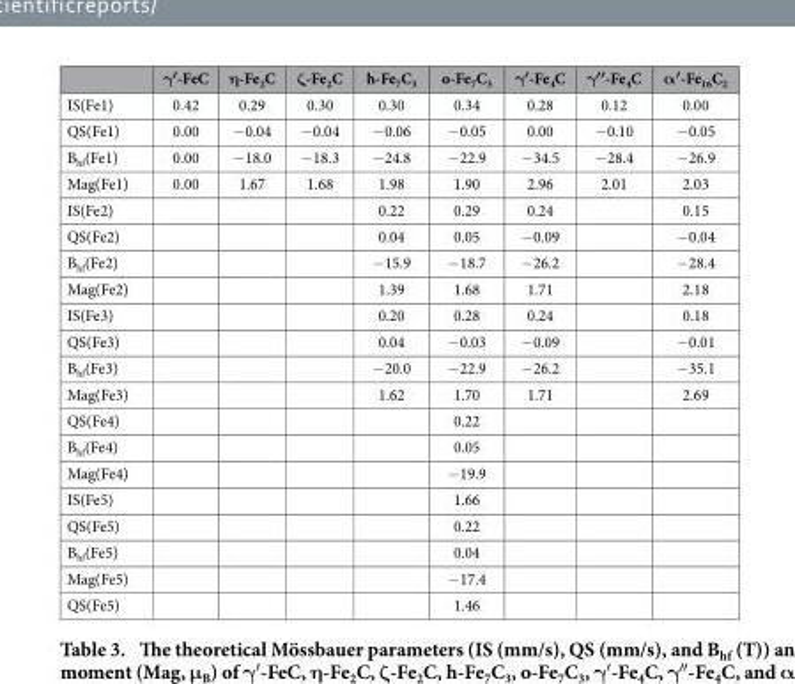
<table><thead><tr><td></td><td>γ′-FeC</td><td>η-Fe<sub>2</sub>C</td><td>ζ-Fe<sub>2</sub>C</td><td>h-Fe<sub>7</sub>C<sub>3</sub></td><td>o-Fe<sub>7</sub>C<sub>3</sub></td><td>γ′-Fe<sub>4</sub>C</td><td>γ′′-Fe<sub>4</sub>C</td><td>α′-Fe<sub>16</sub>C<sub>2</sub></td></tr></thead><tbody><tr><td>IS(Fe1)</td><td>0.42</td><td>0.29</td><td>0.30</td><td>0.30</td><td>0.34</td><td>0.28</td><td>0.12</td><td>0.00</td></tr><tr><td>QS(Fe1)</td><td>0.00</td><td>− 0.04</td><td>− 0.04</td><td>− 0.06</td><td>− 0.05</td><td>0.00</td><td>− 0.10</td><td>− 0.05</td></tr><tr><td>B<sub>hf</sub>(Fe1)</td><td>0.00</td><td>− 18.0</td><td>− 18.3</td><td>− 24.8</td><td>− 22.9</td><td>− 34.5</td><td>− 28.4</td><td>− 26.9</td></tr><tr><td>Mag(Fe1)</td><td>0.00</td><td>1.67</td><td>1.68</td><td>1.98</td><td>1.90</td><td>2.96</td><td>2.01</td><td>2.03</td></tr><tr><td>IS(Fe2)</td><td></td><td></td><td></td><td>0.22</td><td>0.29</td><td>0.24</td><td></td><td>0.15</td></tr><tr><td>QS(Fe2)</td><td></td><td></td><td></td><td>0.04</td><td>0.05</td><td>− 0.09</td><td></td><td>− 0.04</td></tr><tr><td>B<sub>hf</sub>(Fe2)</td><td></td><td></td><td></td><td>− 15.9</td><td>− 18.7</td><td>− 26.2</td><td></td><td>− 28.4</td></tr><tr><td>Mag(Fe2)</td><td></td><td></td><td></td><td>1.39</td><td>1.68</td><td>1.71</td><td></td><td>2.18</td></tr><tr><td>IS(Fe3)</td><td></td><td></td><td></td><td>0.20</td><td>0.28</td><td>0.24</td><td></td><td>0.18</td></tr><tr><td>QS(Fe3)</td><td></td><td></td><td></td><td>0.04</td><td>− 0.03</td><td>− 0.09</td><td></td><td>− 0.01</td></tr><tr><td>B<sub>hf</sub>(Fe3)</td><td></td><td></td><td></td><td>− 20.0</td><td>− 22.9</td><td>− 26.2</td><td></td><td>− 35.1</td></tr><tr><td>Mag(Fe3)</td><td></td><td></td><td></td><td>1.62</td><td>1.70</td><td>1.71</td><td></td><td>2.69</td></tr><tr><td>QS(Fe4)</td><td></td><td></td><td></td><td></td><td>0.22</td><td></td><td></td><td></td></tr><tr><td>B<sub>hf</sub>(Fe4)</td><td></td><td></td><td></td><td></td><td>0.05</td><td></td><td></td><td></td></tr><tr><td>Mag(Fe4)</td><td></td><td></td><td></td><td></td><td>− 19.9</td><td></td><td></td><td></td></tr><tr><td>IS(Fe5)</td><td></td><td></td><td></td><td></td><td>1.66</td><td></td><td></td><td></td></tr><tr><td>QS(Fe5)</td><td></td><td></td><td></td><td></td><td>0.22</td><td></td><td></td><td></td></tr><tr><td>B<sub>hf</sub>(Fe5)</td><td></td><td></td><td></td><td></td><td>0.04</td><td></td><td></td><td></td></tr><tr><td>Mag(Fe5)</td><td></td><td></td><td></td><td></td><td>− 17.4</td><td></td><td></td><td></td></tr><tr><td>QS(Fe5)</td><td></td><td></td><td></td><td></td><td>1.46</td><td></td><td></td><td></td></tr></tbody></table>